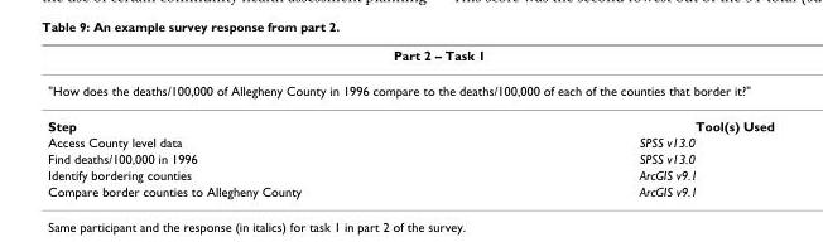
<table><thead><tr><td rowspan="2" colspan="2">Part 2 – Task 1 &quot;How does the deaths/100,000 of Allegheny County in 1996 compare to the deaths/100,000 of each of the counties that border it?&quot;</td></tr><tr></tr><tr><td>Step</td><td>Tool(s) Used</td></tr></thead><tbody><tr><td>Access County level data</td><td>SPSS v13.0</td></tr><tr><td>Find deaths/100,000 in 1996</td><td>SPSS v13.0</td></tr><tr><td>Identify bordering counties</td><td>ArcGIS v9.1</td></tr><tr><td>Compare border counties to Allegheny County</td><td>ArcGIS v9.1</td></tr></tbody></table>